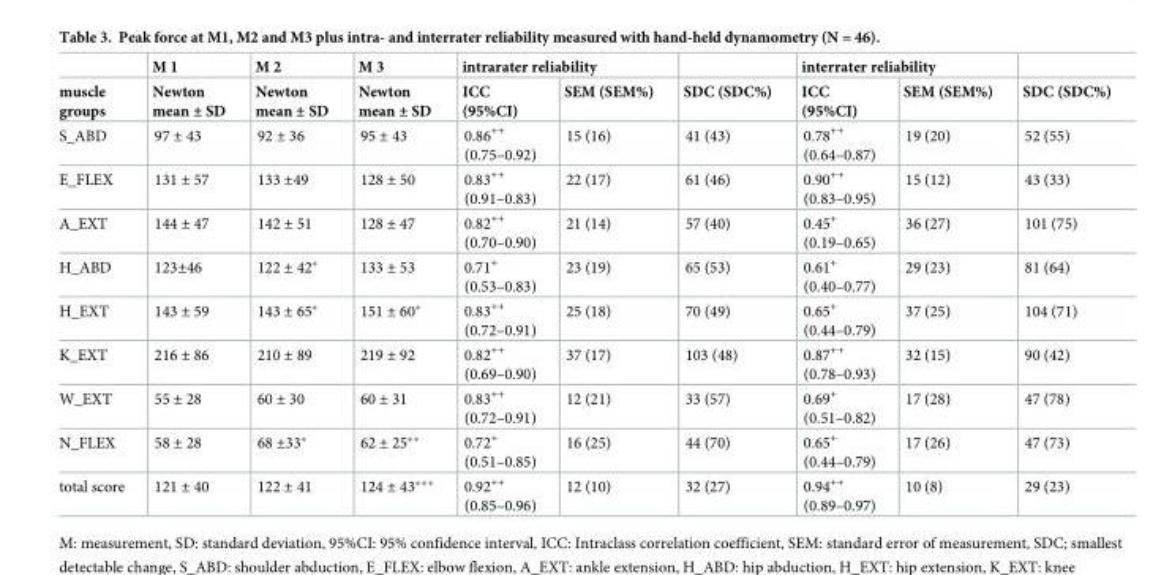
<table><thead><tr><td rowspan="2">muscle groups</td><td rowspan="2">M 1 Newton mean ± SD</td><td rowspan="2">M 2 Newton mean ± SD</td><td rowspan="2">M 3 Newton mean ± SD</td><td colspan="2">intrarater reliability</td><td rowspan="2">SDC (SDC%)</td><td colspan="2">interrater reliability</td><td rowspan="2">SDC (SDC%)</td></tr><tr><td>ICC (95%CI)</td><td>SEM (SEM%)</td><td>ICC (95%CI)</td><td>SEM (SEM%)</td></tr></thead><tbody><tr><td>S_ABD</td><td>97 ± 43</td><td>92 ± 36</td><td>95 ± 43</td><td>0.86<sup>++</sup> (0.75–0.92)</td><td>15 (16)</td><td>41 (43)</td><td>0.78<sup>++</sup> (0.64–0.87)</td><td>19 (20)</td><td>52 (55)</td></tr><tr><td>E_FLEX</td><td>131 ± 57</td><td>133 ±49</td><td>128 ± 50</td><td>0.83<sup>++</sup> (0.91–0.83)</td><td>22 (17)</td><td>61 (46)</td><td>0.90<sup>++</sup> (0.83–0.95)</td><td>15 (12)</td><td>43 (33)</td></tr><tr><td>A_EXT</td><td>144 ± 47</td><td>142 ± 51</td><td>128 ± 47</td><td>0.82<sup>++</sup> (0.70–0.90)</td><td>21 (14)</td><td>57 (40)</td><td>0.45<sup>+</sup> (0.19–0.65)</td><td>36 (27)</td><td>101 (75)</td></tr><tr><td>H_ABD</td><td>123±46</td><td>122 ± 42*</td><td>133 ± 53</td><td>0.71<sup>+</sup> (0.53–0.83)</td><td>23 (19)</td><td>65 (53)</td><td>0.61<sup>+</sup> (0.40–0.77)</td><td>29 (23)</td><td>81 (64)</td></tr><tr><td>H_EXT</td><td>143 ± 59</td><td>143 ± 65*</td><td>151 ± 60*</td><td>0.83<sup>++</sup> (0.72–0.91)</td><td>25 (18)</td><td>70 (49)</td><td>0.65<sup>+</sup> (0.44–0.79)</td><td>37 (25)</td><td>104 (71)</td></tr><tr><td>K_EXT</td><td>216 ± 86</td><td>210 ± 89</td><td>219 ± 92</td><td>0.82<sup>++</sup> (0.69–0.90)</td><td>37 (17)</td><td>103 (48)</td><td>0.87<sup>++</sup> (0.78–0.93)</td><td>32 (15)</td><td>90 (42)</td></tr><tr><td>W_EXT</td><td>55 ± 28</td><td>60 ± 30</td><td>60 ± 31</td><td>0.83<sup>++</sup> (0.72–0.91)</td><td>12 (21)</td><td>33 (57)</td><td>0.69<sup>+</sup> (0.51–0.82)</td><td>17 (28)</td><td>47 (78)</td></tr><tr><td>N_FLEX</td><td>58 ± 28</td><td>68 ±33*</td><td>62 ± 25**</td><td>0.72<sup>+</sup> (0.51–0.85)</td><td>16 (25)</td><td>44 (70)</td><td>0.65<sup>+</sup> (0.44–0.79)</td><td>17 (26)</td><td>47 (73)</td></tr><tr><td>total score</td><td>121 ± 40</td><td>122 ± 41</td><td>124 ± 43***</td><td>0.92<sup>++</sup> (0.85–0.96)</td><td>12 (10)</td><td>32 (27)</td><td>0.94<sup>++</sup> (0.89–0.97)</td><td>10 (8)</td><td>29 (23)</td></tr></tbody></table>